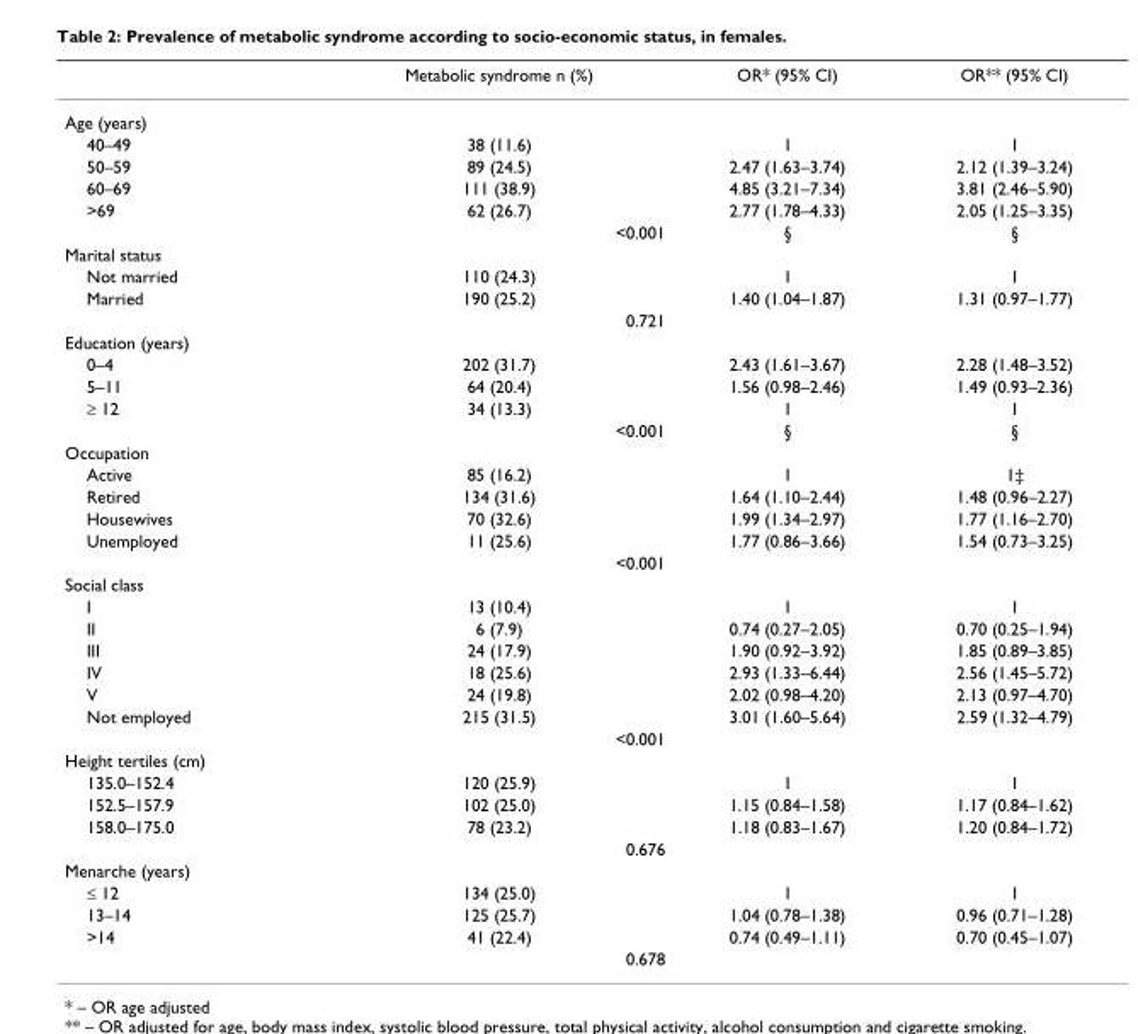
<table><thead><tr><td></td><td>Metabolic syndrome n (%)</td><td>OR* (95% CI)</td><td>OR** (95% CI)</td></tr></thead><tbody><tr><td colspan="4">Age (years)</td></tr><tr><td>40–49</td><td>38 (11.6)</td><td>1</td><td>1</td></tr><tr><td>50–59</td><td>89 (24.5)</td><td>2.47 (1.63–3.74)</td><td>2.12 (1.39–3.24)</td></tr><tr><td>60–69</td><td>111 (38.9)</td><td>4.85 (3.21–7.34)</td><td>3.81 (2.46–5.90)</td></tr><tr><td rowspan="2">&gt;69</td><td>62 (26.7)</td><td>2.77 (1.78–4.33)</td><td>2.05 (1.25–3.35)</td></tr><tr><td>&lt;0.001</td><td>§</td><td>§</td></tr><tr><td colspan="4">Marital status</td></tr><tr><td>Not married</td><td>110 (24.3)</td><td>1</td><td>1</td></tr><tr><td rowspan="2">Married</td><td>190 (25.2)</td><td>1.40 (1.04–1.87)</td><td>1.31 (0.97–1.77)</td></tr><tr><td>0.721</td><td></td><td></td></tr><tr><td colspan="4">Education (years)</td></tr><tr><td>0–4</td><td>202 (31.7)</td><td>2.43 (1.61–3.67)</td><td>2.28 (1.48–3.52)</td></tr><tr><td>5–11</td><td>64 (20.4)</td><td>1.56 (0.98–2.46)</td><td>1.49 (0.93–2.36)</td></tr><tr><td rowspan="2">≥ 12</td><td>34 (13.3)</td><td>1</td><td>1</td></tr><tr><td>&lt;0.001</td><td>§</td><td>§</td></tr><tr><td colspan="4">Occupation</td></tr><tr><td>Active</td><td>85 (16.2)</td><td>1</td><td>1‡</td></tr><tr><td>Retired</td><td>134 (31.6)</td><td>1.64 (1.10–2.44)</td><td>1.48 (0.96–2.27)</td></tr><tr><td>Housewives</td><td>70 (32.6)</td><td>1.99 (1.34–2.97)</td><td>1.77 (1.16–2.70)</td></tr><tr><td rowspan="2">Unemployed</td><td>11 (25.6)</td><td>1.77 (0.86–3.66)</td><td>1.54 (0.73–3.25)</td></tr><tr><td>&lt;0.001</td><td></td><td></td></tr><tr><td colspan="4">Social class</td></tr><tr><td>I</td><td>13 (10.4)</td><td>1</td><td>1</td></tr><tr><td>II</td><td>6 (7.9)</td><td>0.74 (0.27–2.05)</td><td>0.70 (0.25–1.94)</td></tr><tr><td>III</td><td>24 (17.9)</td><td>1.90 (0.92–3.92)</td><td>1.85 (0.89–3.85)</td></tr><tr><td>IV</td><td>18 (25.6)</td><td>2.93 (1.33–6.44)</td><td>2.56 (1.45–5.72)</td></tr><tr><td>V</td><td>24 (19.8)</td><td>2.02 (0.98–4.20)</td><td>2.13 (0.97–4.70)</td></tr><tr><td rowspan="2">Not employed</td><td>215 (31.5)</td><td>3.01 (1.60–5.64)</td><td>2.59 (1.32–4.79)</td></tr><tr><td>&lt;0.001</td><td></td><td></td></tr><tr><td colspan="4">Height tertiles (cm)</td></tr><tr><td>135.0–152.4</td><td>120 (25.9)</td><td>1</td><td>1</td></tr><tr><td>152.5–157.9</td><td>102 (25.0)</td><td>1.15 (0.84–1.58)</td><td>1.17 (0.84–1.62)</td></tr><tr><td rowspan="2">158.0–175.0</td><td>78 (23.2)</td><td>1.18 (0.83–1.67)</td><td>1.20 (0.84–1.72)</td></tr><tr><td>0.676</td><td></td><td></td></tr><tr><td colspan="4">Menarche (years)</td></tr><tr><td>≤ 12</td><td>134 (25.0)</td><td>1</td><td>1</td></tr><tr><td>13–14</td><td>125 (25.7)</td><td>1.04 (0.78–1.38)</td><td>0.96 (0.71–1.28)</td></tr><tr><td rowspan="2">&gt;14</td><td>41 (22.4)</td><td>0.74 (0.49–1.11)</td><td>0.70 (0.45–1.07)</td></tr><tr><td>0.678</td><td></td><td></td></tr></tbody></table>